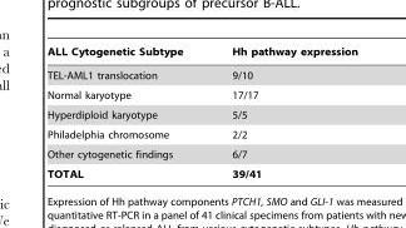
<table><thead><tr><td>ALL Cytogenetic Subtype</td><td>Hh pathway expression</td></tr></thead><tbody><tr><td>TEL-AML1 translocation</td><td>9/10</td></tr><tr><td>Normal karyotype</td><td>17/17</td></tr><tr><td>Hyperdiploid karyotype</td><td>5/5</td></tr><tr><td>Philadelphia chromosome</td><td>2/2</td></tr><tr><td>Other cytogenetic findings</td><td>6/7</td></tr><tr><td>TOTAL</td><td>39/41</td></tr></tbody></table>